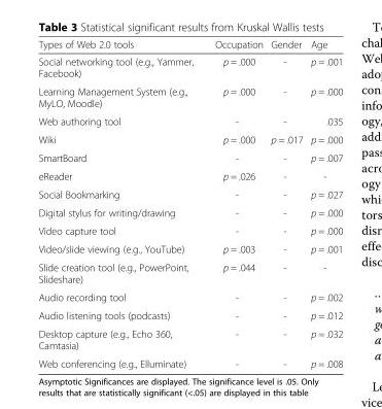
<table><thead><tr><td>Types of Web 2.0 tools</td><td>Occupation</td><td>Gender</td><td>Age</td></tr></thead><tbody><tr><td>Social networking tool (e.g., Yammer, Facebook)</td><td>p = .000</td><td>-</td><td>p = .001</td></tr><tr><td>Learning Management System (e.g., MyLO, Moodle)</td><td>p = .000</td><td>-</td><td>p = .000</td></tr><tr><td>Web authoring tool</td><td>-</td><td>-</td><td>.035</td></tr><tr><td>Wiki</td><td>p = .000</td><td>p = .017</td><td>p = .000</td></tr><tr><td>SmartBoard</td><td>-</td><td>-</td><td>p = .007</td></tr><tr><td>eReader</td><td>p = .026</td><td>-</td><td>-</td></tr><tr><td>Social Bookmarking</td><td>-</td><td>-</td><td>p = .027</td></tr><tr><td>Digital stylus for writing/drawing</td><td>-</td><td>-</td><td>p = .000</td></tr><tr><td>Video capture tool</td><td>-</td><td>-</td><td>p = .000</td></tr><tr><td>Video/slide viewing (e.g., YouTube)</td><td>p = .003</td><td>-</td><td>p = .001</td></tr><tr><td>Slide creation tool (e.g., PowerPoint, Slideshare)</td><td>p = .044</td><td>-</td><td>-</td></tr><tr><td>Audio recording tool</td><td>-</td><td>-</td><td>p = .002</td></tr><tr><td>Audio listening tools (podcasts)</td><td>-</td><td>-</td><td>p = .012</td></tr><tr><td>Desktop capture (e.g., Echo 360, Camtasia)</td><td>-</td><td>-</td><td>p = .032</td></tr><tr><td>Web conferencing (e.g., Elluminate)</td><td>-</td><td>-</td><td>p = .008</td></tr></tbody></table>